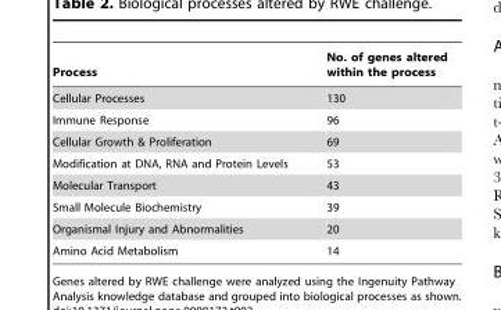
<table><thead><tr><td>Process</td><td>No. of genes altered within the process</td></tr></thead><tbody><tr><td>Cellular Processes</td><td>130</td></tr><tr><td>Immune Response</td><td>96</td></tr><tr><td>Cellular Growth &amp; Proliferation</td><td>69</td></tr><tr><td>Modification at DNA, RNA and Protein Levels</td><td>53</td></tr><tr><td>Molecular Transport</td><td>43</td></tr><tr><td>Small Molecule Biochemistry</td><td>39</td></tr><tr><td>Organismal Injury and Abnormalities</td><td>20</td></tr><tr><td>Amino Acid Metabolism</td><td>14</td></tr></tbody></table>